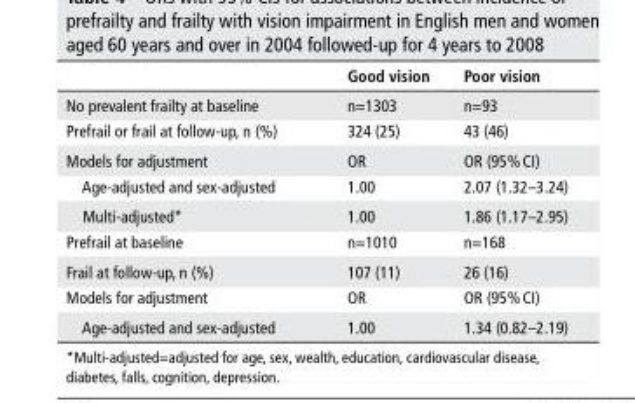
<table><thead><tr><td></td><td>Good vision</td><td>Poor vision</td></tr></thead><tbody><tr><td>No prevalent frailty at baseline</td><td>n=1303</td><td>n=93</td></tr><tr><td>Prefrail or frail at follow-up, n (%)</td><td>324 (25)</td><td>43 (46)</td></tr><tr><td>Models for adjustment</td><td>OR</td><td>OR (95% CI)</td></tr><tr><td>Age-adjusted and sex-adjusted</td><td>1.00</td><td>2.07 (1.32–3.24)</td></tr><tr><td>Multi-adjusted*</td><td>1.00</td><td>1.86 (1.17–2.95)</td></tr><tr><td>Prefrail at baseline</td><td>n=1010</td><td>n=168</td></tr><tr><td>Frail at follow-up, n (%)</td><td>107 (11)</td><td>26 (16)</td></tr><tr><td>Models for adjustment</td><td>OR</td><td>OR (95% CI)</td></tr><tr><td>Age-adjusted and sex-adjusted</td><td>1.00</td><td>1.34 (0.82–2.19)</td></tr></tbody></table>